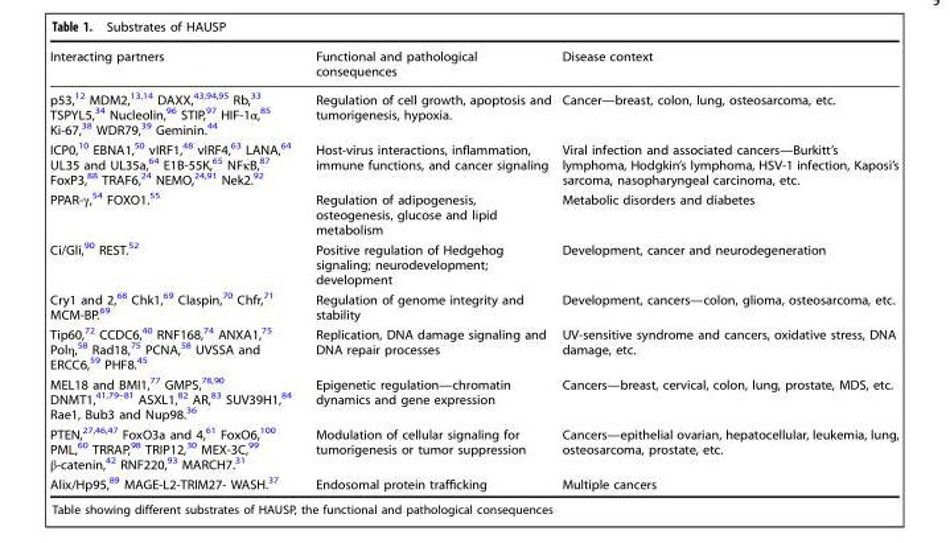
<table><thead><tr><td>Interacting partners</td><td>Functional and pathological consequences</td><td>Disease context</td></tr></thead><tbody><tr><td>p53,<sup>12</sup> MDM2,<sup>13,14</sup> DAXX,<sup>43,94,95</sup> Rb,<sup>33</sup> TSPYL5,<sup>34</sup> Nucleolin,<sup>96</sup> STIP,<sup>97</sup> HIF-1α,<sup>85</sup> Ki-67,<sup>38</sup> WDR79,<sup>39</sup> Geminin.<sup>44</sup></td><td>Regulation of cell growth, apoptosis and tumorigenesis, hypoxia.</td><td>Cancer—breast, colon, lung, osteosarcoma, etc.</td></tr><tr><td>ICP0,<sup>10</sup> EBNA1,<sup>50</sup> vIRF1,<sup>48</sup> vIRF4,<sup>63</sup> LANA,<sup>64</sup> UL35 and UL35a,<sup>64</sup> E1B-55K,<sup>65</sup> NFκB,<sup>87</sup> FoxP3,<sup>88</sup> TRAF6,<sup>24</sup> NEMO,<sup>24,91</sup> Nek2.<sup>92</sup></td><td>Host-virus interactions, inflammation, immune functions, and cancer signaling</td><td>Viral infection and associated cancers—Burkitt’s lymphoma, Hodgkin’s lymphoma, HSV-1 infection, Kaposi’s sarcoma, nasopharyngeal carcinoma, etc.</td></tr><tr><td>PPAR-γ,<sup>54</sup> FOXO1.<sup>55</sup></td><td>Regulation of adipogenesis, osteogenesis, glucose and lipid metabolism</td><td>Metabolic disorders and diabetes</td></tr><tr><td>Ci/Gli,<sup>90</sup> REST.<sup>52</sup></td><td>Positive regulation of Hedgehog signaling; neurodevelopment; development</td><td>Development, cancer and neurodegeneration</td></tr><tr><td>Cry1 and 2,<sup>68</sup> Chk1,<sup>69</sup> Claspin,<sup>70</sup> Chfr,<sup>71</sup> MCM-BP.<sup>69</sup></td><td>Regulation of genome integrity and stability</td><td>Development, cancers—colon, glioma, osteosarcoma, etc.</td></tr><tr><td>Tip60,<sup>72</sup> CCDC6,<sup>40</sup> RNF168,<sup>74</sup> ANXA1,<sup>75</sup> Polη,<sup>58</sup> Rad18,<sup>75</sup> PCNA,<sup>58</sup> UVSSA and ERCC6,<sup>59</sup> PHF8.<sup>45</sup></td><td>Replication, DNA damage signaling and DNA repair processes</td><td>UV-sensitive syndrome and cancers, oxidative stress, DNA damage, etc.</td></tr><tr><td>MEL18 and BMI1,<sup>77</sup> GMPS,<sup>78,90</sup> DNMT1,<sup>41,79–81</sup> ASXL1,<sup>82</sup> AR,<sup>83</sup> SUV39H1,<sup>84</sup> Rae1, Bub3 and Nup98.<sup>36</sup></td><td>Epigenetic regulation—chromatin dynamics and gene expression</td><td>Cancers—breast, cervical, colon, lung, prostate, MDS, etc.</td></tr><tr><td>PTEN,<sup>27,46,47</sup> FoxO3a and 4,<sup>61</sup> FoxO6,<sup>100</sup> PML,<sup>60</sup> TRRAP,<sup>98</sup> TRIP12,<sup>30</sup> MEX-3C,<sup>99</sup> β-catenin,<sup>42</sup> RNF220,<sup>93</sup> MARCH7.<sup>31</sup></td><td>Modulation of cellular signaling for tumorigenesis or tumor suppression</td><td>Cancers—epithelial ovarian, hepatocellular, leukemia, lung, osteosarcoma, prostate, etc.</td></tr><tr><td>Alix/Hp95,<sup>89</sup> MAGE-L2-TRIM27- WASH.<sup>37</sup></td><td>Endosomal protein trafficking</td><td>Multiple cancers</td></tr></tbody></table>